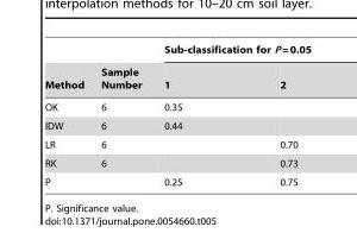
<table><thead><tr><td rowspan="2">Method</td><td rowspan="2">Sample Number</td><td colspan="2">Sub-classification for P = 0.05</td></tr><tr><td>1</td><td>2</td></tr></thead><tbody><tr><td>OK</td><td>6</td><td>0.35</td><td></td></tr><tr><td>IDW</td><td>6</td><td>0.44</td><td></td></tr><tr><td>LR</td><td>6</td><td></td><td>0.70</td></tr><tr><td>RK</td><td>6</td><td></td><td>0.73</td></tr><tr><td>P</td><td></td><td>0.25</td><td>0.75</td></tr></tbody></table>